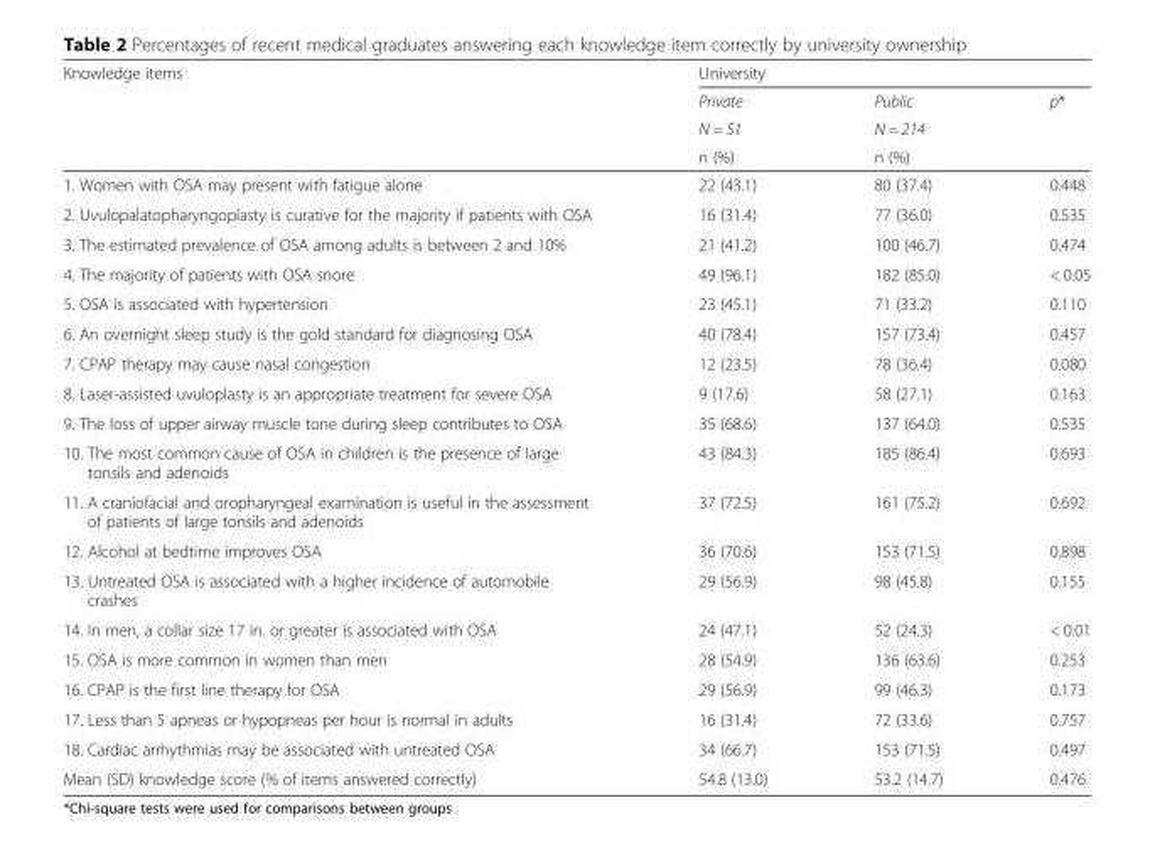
<table><thead><tr><td rowspan="4">Knowledge items</td><td colspan="3">University</td></tr><tr><td rowspan="3">Private N = 51 n (%)</td><td rowspan="3">Public N = 214 n (%)</td><td rowspan="3">p*</td></tr><tr></tr><tr></tr></thead><tbody><tr><td>1. Women with OSA may present with fatigue alone</td><td>22 (43.1)</td><td>80 (37.4)</td><td>0.448</td></tr><tr><td>2. Uvulopalatopharyngoplasty is curative for the majority if patients with OSA</td><td>16 (31.4)</td><td>77 (36.0)</td><td>0.535</td></tr><tr><td>3. The estimated prevalence of OSA among adults is between 2 and 10%</td><td>21 (41.2)</td><td>100 (46.7)</td><td>0.474</td></tr><tr><td>4. The majority of patients with OSA snore</td><td>49 (96.1)</td><td>182 (85.0)</td><td>&lt; 0.05</td></tr><tr><td>5. OSA is associated with hypertension</td><td>23 (45.1)</td><td>71 (33.2)</td><td>0.110</td></tr><tr><td>6. An overnight sleep study is the gold standard for diagnosing OSA</td><td>40 (78.4)</td><td>157 (73.4)</td><td>0.457</td></tr><tr><td>7. CPAP therapy may cause nasal congestion</td><td>12 (23.5)</td><td>78 (36.4)</td><td>0.080</td></tr><tr><td>8. Laser-assisted uvuloplasty is an appropriate treatment for severe OSA</td><td>9 (17.6)</td><td>58 (27.1)</td><td>0.163</td></tr><tr><td>9. The loss of upper airway muscle tone during sleep contributes to OSA</td><td>35 (68.6)</td><td>137 (64.0)</td><td>0.535</td></tr><tr><td>10. The most common cause of OSA in children is the presence of large tonsils and adenoids</td><td>43 (84.3)</td><td>185 (86.4)</td><td>0.693</td></tr><tr><td>11. A craniofacial and oropharyngeal examination is useful in the assessment of patients of large tonsils and adenoids</td><td>37 (72.5)</td><td>161 (75.2)</td><td>0.692</td></tr><tr><td>12. Alcohol at bedtime improves OSA</td><td>36 (70.6)</td><td>153 (71.5)</td><td>0.898</td></tr><tr><td>13. Untreated OSA is associated with a higher incidence of automobile crashes</td><td>29 (56.9)</td><td>98 (45.8)</td><td>0.155</td></tr><tr><td>14. In men, a collar size 17 in. or greater is associated with OSA</td><td>24 (47.1)</td><td>52 (24.3)</td><td>&lt; 0.01</td></tr><tr><td>15. OSA is more common in women than men</td><td>28 (54.9)</td><td>136 (63.6)</td><td>0.253</td></tr><tr><td>16. CPAP is the first line therapy for OSA</td><td>29 (56.9)</td><td>99 (46.3)</td><td>0.173</td></tr><tr><td>17. Less than 5 apneas or hypopneas per hour is normal in adults</td><td>16 (31.4)</td><td>72 (33.6)</td><td>0.757</td></tr><tr><td>18. Cardiac arrhythmias may be associated with untreated OSA</td><td>34 (66.7)</td><td>153 (71.5)</td><td>0.497</td></tr><tr><td>Mean (SD) knowledge score (% of items answered correctly)</td><td>54.8 (13.0)</td><td>53.2 (14.7)</td><td>0.476</td></tr></tbody></table>